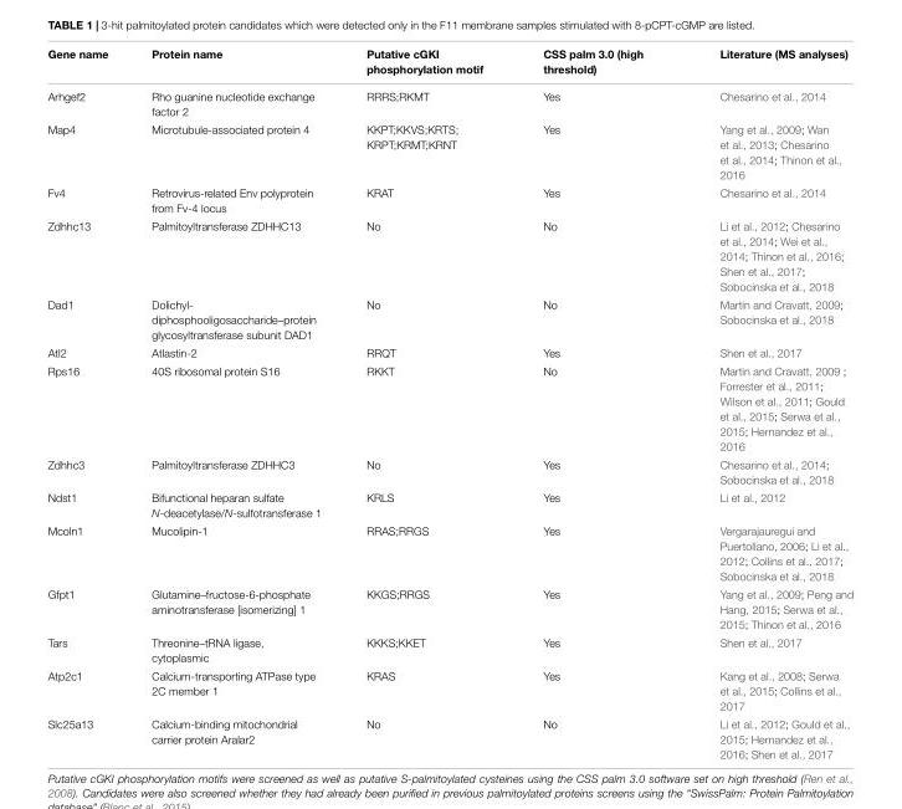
<table><thead><tr><td>Gene name</td><td>Protein name</td><td>Putative cGKI phosphorylation motif</td><td>CSS palm 3.0 (high threshold)</td><td>Literature (MS analyses)</td></tr></thead><tbody><tr><td>Arhgef2</td><td>Rho guanine nucleotide exchange factor 2</td><td>RRRS;RKMT</td><td>Yes</td><td>Chesarino et al., 2014</td></tr><tr><td>Map4</td><td>Microtubule-associated protein 4</td><td>KKPT;KKVS;KRTS; KRPT;KRMT;KRNT</td><td>Yes</td><td>Yang et al., 2009; Wan et al., 2013; Chesarino et al., 2014; Thinon et al., 2016</td></tr><tr><td>Fv4</td><td>Retrovirus-related Env polyprotein from Fv-4 locus</td><td>KRAT</td><td>Yes</td><td>Chesarino et al., 2014</td></tr><tr><td>Zdhhc13</td><td>Palmitoyltransferase ZDHHC13</td><td>No</td><td>No</td><td>Li et al., 2012; Chesarino et al., 2014; Wei et al., 2014; Thinon et al., 2016; Shen et al., 2017; Sobocinska et al., 2018</td></tr><tr><td>Dad1</td><td>Dolichyl- diphosphooligosaccharide–protein glycosyltransferase subunit DAD1</td><td>No</td><td>No</td><td>Martin and Cravatt, 2009; Sobocinska et al., 2018</td></tr><tr><td>Atl2</td><td>Atlastin-2</td><td>RRQT</td><td>Yes</td><td>Shen et al., 2017</td></tr><tr><td>Rps16</td><td>40S ribosomal protein S16</td><td>RKKT</td><td>No</td><td>Martin and Cravatt, 2009 ; Forrester et al., 2011; Wilson et al., 2011; Gould et al., 2015; Serwa et al., 2015; Hernandez et al., 2016</td></tr><tr><td>Zdhhc3</td><td>Palmitoyltransferase ZDHHC3</td><td>No</td><td>Yes</td><td>Chesarino et al., 2014; Sobocinska et al., 2018</td></tr><tr><td>Ndst1</td><td>Bifunctional heparan sulfate N-deacetylase/N-sulfotransferase 1</td><td>KRLS</td><td>Yes</td><td>Li et al., 2012</td></tr><tr><td>Mcoln1</td><td>Mucolipin-1</td><td>RRAS;RRGS</td><td>Yes</td><td>Vergarajauregui and Puertollano, 2006; Li et al., 2012; Collins et al., 2017; Sobocinska et al., 2018</td></tr><tr><td>Gfpt1</td><td>Glutamine–fructose-6-phosphate aminotransferase [isomerizing] 1</td><td>KKGS;RRGS</td><td>Yes</td><td>Yang et al., 2009; Peng and Hang, 2015; Serwa et al., 2015; Thinon et al., 2016</td></tr><tr><td>Tars</td><td>Threonine–tRNA ligase, cytoplasmic</td><td>KKKS;KKET</td><td>Yes</td><td>Shen et al., 2017</td></tr><tr><td>Atp2c1</td><td>Calcium-transporting ATPase type 2C member 1</td><td>KRAS</td><td>Yes</td><td>Kang et al., 2008; Serwa et al., 2015; Collins et al., 2017</td></tr><tr><td>Slc25a13</td><td>Calcium-binding mitochondrial carrier protein Aralar2</td><td>No</td><td>No</td><td>Li et al., 2012; Gould et al., 2015; Hernandez et al., 2016; Shen et al., 2017</td></tr></tbody></table>